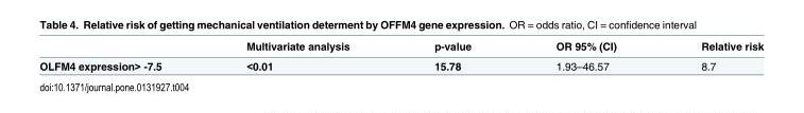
<table><thead><tr><td></td><td>Multivariate analysis</td><td>p-value</td><td>OR 95% (CI)</td><td>Relative risk</td></tr></thead><tbody><tr><td>OLFM4 expression&gt; -7.5</td><td>&lt;0.01</td><td>15.78</td><td>1.93–46.57</td><td>8.7</td></tr></tbody></table>